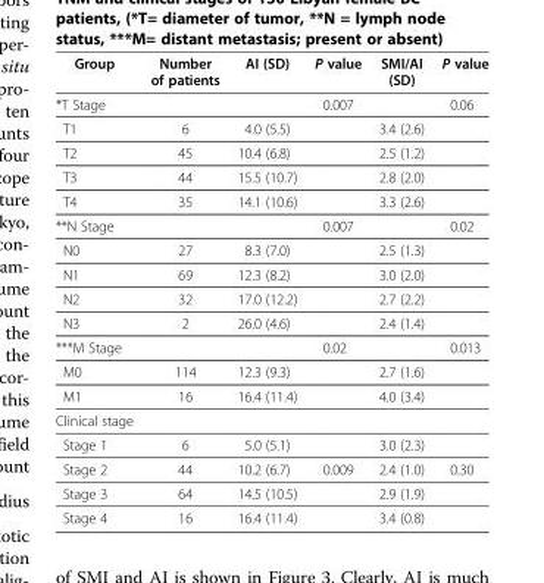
<table><thead><tr><td>Group</td><td>Number of patients</td><td>AI (SD)</td><td>P value</td><td>SMI/AI (SD)</td><td>P value</td></tr></thead><tbody><tr><td>*T Stage</td><td></td><td></td><td>0.007</td><td></td><td>0.06</td></tr><tr><td>T1</td><td>6</td><td>4.0 (5.5)</td><td></td><td>3.4 (2.6)</td><td></td></tr><tr><td>T2</td><td>45</td><td>10.4 (6.8)</td><td></td><td>2.5 (1.2)</td><td></td></tr><tr><td>T3</td><td>44</td><td>15.5 (10.7)</td><td></td><td>2.8 (2.0)</td><td></td></tr><tr><td>T4</td><td>35</td><td>14.1 (10.6)</td><td></td><td>3.3 (2.6)</td><td></td></tr><tr><td>**N Stage</td><td></td><td></td><td>0.007</td><td></td><td>0.02</td></tr><tr><td>N0</td><td>27</td><td>8.3 (7.0)</td><td></td><td>2.5 (1.3)</td><td></td></tr><tr><td>N1</td><td>69</td><td>12.3 (8.2)</td><td></td><td>3.0 (2.0)</td><td></td></tr><tr><td>N2</td><td>32</td><td>17.0 (12.2)</td><td></td><td>2.7 (2.2)</td><td></td></tr><tr><td>N3</td><td>2</td><td>26.0 (4.6)</td><td></td><td>2.4 (1.4)</td><td></td></tr><tr><td>***M Stage</td><td></td><td></td><td>0.02</td><td></td><td>0.013</td></tr><tr><td>M0</td><td>114</td><td>12.3 (9.3)</td><td></td><td>2.7 (1.6)</td><td></td></tr><tr><td>M1</td><td>16</td><td>16.4 (11.4)</td><td></td><td>4.0 (3.4)</td><td></td></tr><tr><td colspan="6">Clinical stage</td></tr><tr><td>Stage 1</td><td>6</td><td>5.0 (5.1)</td><td></td><td>3.0 (2.3)</td><td></td></tr><tr><td>Stage 2</td><td>44</td><td>10.2 (6.7)</td><td>0.009</td><td>2.4 (1.0)</td><td>0.30</td></tr><tr><td>Stage 3</td><td>64</td><td>14.5 (10.5)</td><td></td><td>2.9 (1.9)</td><td></td></tr><tr><td>Stage 4</td><td>16</td><td>16.4 (11.4)</td><td></td><td>3.4 (0.8)</td><td></td></tr></tbody></table>